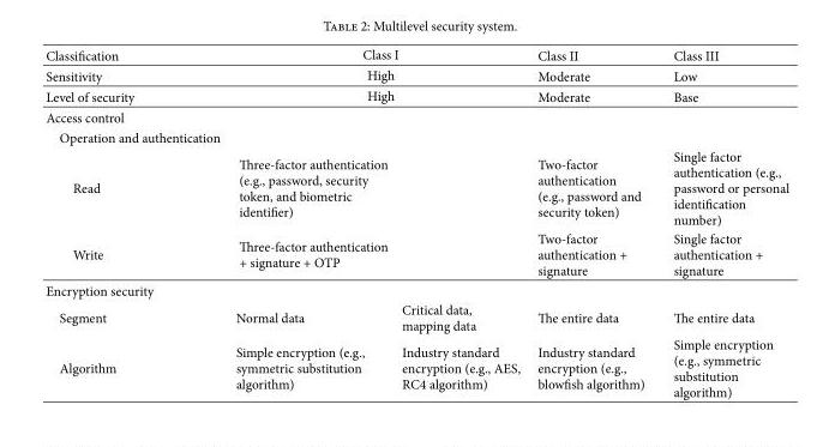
<table><tbody><tr><td>Classification</td><td colspan="2">Class I</td><td>Class II</td><td>Class III</td></tr><tr><td>Sensitivity</td><td colspan="2">High</td><td>Moderate</td><td>Low</td></tr><tr><td>Level of security</td><td colspan="2">High</td><td>Moderate</td><td>Base</td></tr><tr><td colspan="5">Access control</td></tr><tr><td colspan="5">Operation and authentication</td></tr><tr><td>Read</td><td colspan="2">Three-factor authentication (e.g., password, security token, and biometric identifier)</td><td>Two-factor authentication (e.g., password and security token)</td><td>Single factor authentication (e.g., password or personal identification number)</td></tr><tr><td>Write</td><td colspan="2">Three-factor authentication + signature + OTP</td><td>Two-factor authentication + signature</td><td>Single factor authentication + signature</td></tr><tr><td colspan="5">Encryption security</td></tr><tr><td>Segment</td><td>Normal data</td><td>Critical data, mapping data</td><td>The entire data</td><td>The entire data</td></tr><tr><td>Algorithm</td><td>Simple encryption (e.g., symmetric substitution algorithm)</td><td>Industry standard encryption (e.g., AES, RC4 algorithm)</td><td>Industry standard encryption (e.g., blowfish algorithm)</td><td>Simple encryption (e.g., symmetric substitution algorithm)</td></tr></tbody></table>